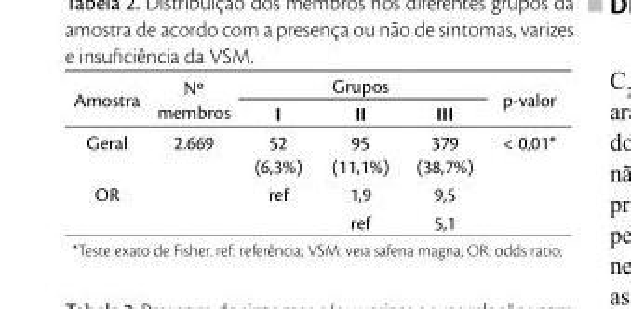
<table><thead><tr><td rowspan="2">Amostra</td><td rowspan="2">Nº membros</td><td rowspan="2">I</td><td rowspan="2">Grupos II</td><td rowspan="2">III</td><td rowspan="2">p-valor</td></tr><tr></tr></thead><tbody><tr><td>Geral</td><td>2.669</td><td>52 (6,3%)</td><td>95 (11,1%)</td><td>379 (38,7%)</td><td>&lt; 0,01*</td></tr><tr><td rowspan="2">OR</td><td></td><td>ref</td><td>1,9</td><td>9,5</td><td></td></tr><tr><td></td><td></td><td>ref</td><td>5,1</td><td></td></tr></tbody></table>